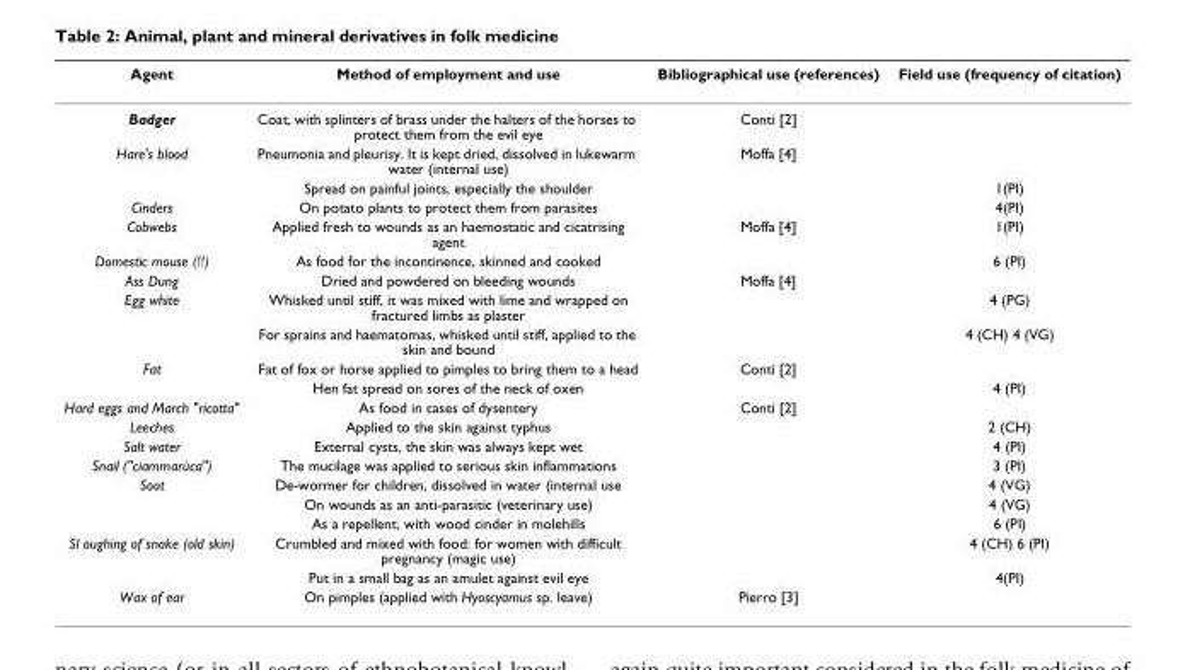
<table><thead><tr><td>Agent</td><td>Method of employment and use</td><td>Bibliographical use (references)</td><td>Field use (frequency of citation)</td></tr></thead><tbody><tr><td>Badger</td><td>Coat, with splinters of brass under the halters of the horses to protect them from the evil eye</td><td>Conti [2]</td><td></td></tr><tr><td rowspan="2">Hare&#x27;s blood</td><td>Pneumonia and pleurisy. It is kept dried, dissolved in lukewarm water (internal use)</td><td>Moffa [4]</td><td></td></tr><tr><td>Spread on painful joints, especially the shoulder</td><td></td><td>1(PI)</td></tr><tr><td>Cinders</td><td>On potato plants to protect them from parasites</td><td></td><td>4(PI)</td></tr><tr><td>Cobwebs</td><td>Applied fresh to wounds as an haemostatic and cicatrising agent</td><td>Moffa [4]</td><td>1(PI)</td></tr><tr><td>Domestic mouse (!!)</td><td>As food for the incontinence, skinned and cooked</td><td></td><td>6 (PI)</td></tr><tr><td>Ass Dung</td><td>Dried and powdered on bleeding wounds</td><td>Moffa [4]</td><td></td></tr><tr><td rowspan="2">Egg white</td><td>Whisked until stiff, it was mixed with lime and wrapped on fractured limbs as plaster</td><td></td><td>4 (PG)</td></tr><tr><td>For sprains and haematomas, whisked until stiff, applied to the skin and bound</td><td></td><td>4 (CH) 4 (VG)</td></tr><tr><td rowspan="2">Fat</td><td>Fat of fox or horse applied to pimples to bring them to a head</td><td>Conti [2]</td><td></td></tr><tr><td>Hen fat spread on sores of the neck of oxen</td><td></td><td>4 (PI)</td></tr><tr><td>Hard eggs and March &quot;ricotta&quot;</td><td>As food in cases of dysentery</td><td>Conti [2]</td><td></td></tr><tr><td>Leeches</td><td>Applied to the skin against typhus</td><td></td><td>2 (CH)</td></tr><tr><td>Salt water</td><td>External cysts, the skin was always kept wet</td><td></td><td>4 (PI)</td></tr><tr><td>Snail (&quot;ciammarùca&quot;)</td><td>The mucilage was applied to serious skin inflammations</td><td></td><td>3 (PI)</td></tr><tr><td rowspan="3">Soot</td><td>De-wormer for children, dissolved in water (internal use</td><td></td><td>4 (VG)</td></tr><tr><td>On wounds as an anti-parasitic (veterinary use)</td><td></td><td>4 (VG)</td></tr><tr><td>As a repellent, with wood cinder in molehills</td><td></td><td>6 (PI)</td></tr><tr><td rowspan="2">Sl oughing of snake (old skin)</td><td>Crumbled and mixed with food: for women with difficult pregnancy (magic use)</td><td></td><td>4 (CH) 6 (PI)</td></tr><tr><td>Put in a small bag as an amulet against evil eye</td><td></td><td>4(PI)</td></tr><tr><td>Wax of ear</td><td>On pimples (applied with Hyoscyamus sp. leave)</td><td>Pierro [3]</td><td></td></tr></tbody></table>